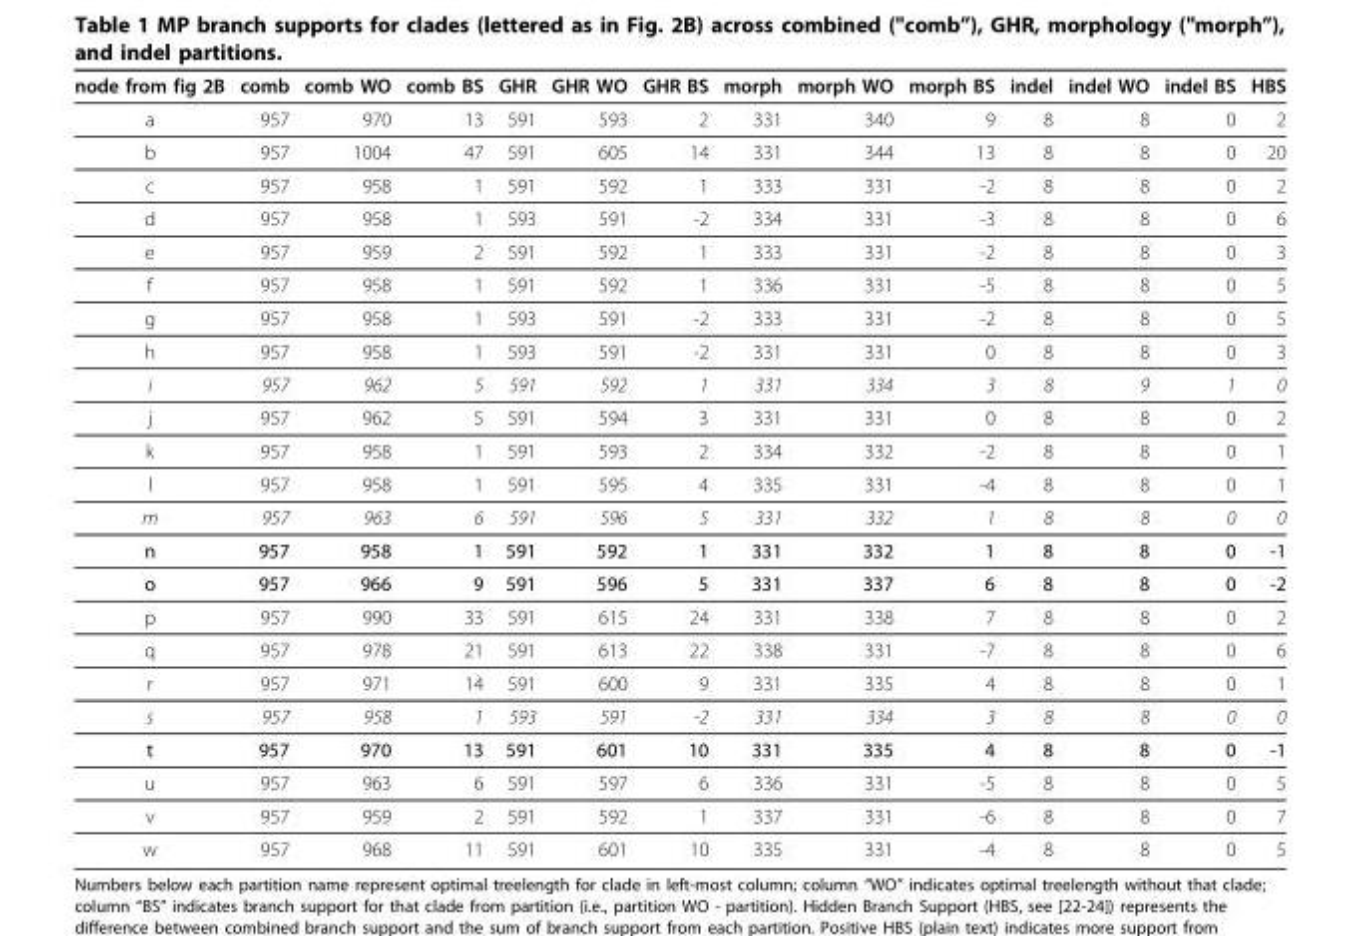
<table><thead><tr><td>node from fig 2B</td><td>comb</td><td>comb WO</td><td>comb BS</td><td>GHR</td><td>GHR WO</td><td>GHR BS</td><td>morph</td><td>morph WO</td><td>morph BS</td><td>indel</td><td>indel WO</td><td>indel BS</td><td>HBS</td></tr></thead><tbody><tr><td>a</td><td>957</td><td>970</td><td>13</td><td>591</td><td>593</td><td>2</td><td>331</td><td>340</td><td>9</td><td>8</td><td>8</td><td>0</td><td>2</td></tr><tr><td>b</td><td>957</td><td>1004</td><td>47</td><td>591</td><td>605</td><td>14</td><td>331</td><td>344</td><td>13</td><td>8</td><td>8</td><td>0</td><td>20</td></tr><tr><td>c</td><td>957</td><td>958</td><td>1</td><td>591</td><td>592</td><td>1</td><td>333</td><td>331</td><td>-2</td><td>8</td><td>8</td><td>0</td><td>2</td></tr><tr><td>d</td><td>957</td><td>958</td><td>1</td><td>593</td><td>591</td><td>-2</td><td>334</td><td>331</td><td>-3</td><td>8</td><td>8</td><td>0</td><td>6</td></tr><tr><td>e</td><td>957</td><td>959</td><td>2</td><td>591</td><td>592</td><td>1</td><td>333</td><td>331</td><td>-2</td><td>8</td><td>8</td><td>0</td><td>3</td></tr><tr><td>f</td><td>957</td><td>958</td><td>1</td><td>591</td><td>592</td><td>1</td><td>336</td><td>331</td><td>-5</td><td>8</td><td>8</td><td>0</td><td>5</td></tr><tr><td>g</td><td>957</td><td>958</td><td>1</td><td>593</td><td>591</td><td>-2</td><td>333</td><td>331</td><td>-2</td><td>8</td><td>8</td><td>0</td><td>5</td></tr><tr><td>h</td><td>957</td><td>958</td><td>1</td><td>593</td><td>591</td><td>-2</td><td>331</td><td>331</td><td>0</td><td>8</td><td>8</td><td>0</td><td>3</td></tr><tr><td>i</td><td>957</td><td>962</td><td>5</td><td>591</td><td>592</td><td>1</td><td>331</td><td>334</td><td>3</td><td>8</td><td>9</td><td>1</td><td>0</td></tr><tr><td>j</td><td>957</td><td>962</td><td>5</td><td>591</td><td>594</td><td>3</td><td>331</td><td>331</td><td>0</td><td>8</td><td>8</td><td>0</td><td>2</td></tr><tr><td>k</td><td>957</td><td>958</td><td>1</td><td>591</td><td>593</td><td>2</td><td>334</td><td>332</td><td>-2</td><td>8</td><td>8</td><td>0</td><td>1</td></tr><tr><td>l</td><td>957</td><td>958</td><td>1</td><td>591</td><td>595</td><td>4</td><td>335</td><td>331</td><td>-4</td><td>8</td><td>8</td><td>0</td><td>1</td></tr><tr><td>m</td><td>957</td><td>963</td><td>6</td><td>591</td><td>596</td><td>5</td><td>331</td><td>332</td><td>1</td><td>8</td><td>8</td><td>0</td><td>0</td></tr><tr><td>n</td><td>957</td><td>958</td><td>1</td><td>591</td><td>592</td><td>1</td><td>331</td><td>332</td><td>1</td><td>8</td><td>8</td><td>0</td><td>-1</td></tr><tr><td>o</td><td>957</td><td>966</td><td>9</td><td>591</td><td>596</td><td>5</td><td>331</td><td>337</td><td>6</td><td>8</td><td>8</td><td>0</td><td>-2</td></tr><tr><td>p</td><td>957</td><td>990</td><td>33</td><td>591</td><td>615</td><td>24</td><td>331</td><td>338</td><td>7</td><td>8</td><td>8</td><td>0</td><td>2</td></tr><tr><td>q</td><td>957</td><td>978</td><td>21</td><td>591</td><td>613</td><td>22</td><td>338</td><td>331</td><td>-7</td><td>8</td><td>8</td><td>0</td><td>6</td></tr><tr><td>r</td><td>957</td><td>971</td><td>14</td><td>591</td><td>600</td><td>9</td><td>331</td><td>335</td><td>4</td><td>8</td><td>8</td><td>0</td><td>1</td></tr><tr><td>s</td><td>957</td><td>958</td><td>1</td><td>593</td><td>591</td><td>-2</td><td>331</td><td>334</td><td>3</td><td>8</td><td>8</td><td>0</td><td>0</td></tr><tr><td>t</td><td>957</td><td>970</td><td>13</td><td>591</td><td>601</td><td>10</td><td>331</td><td>335</td><td>4</td><td>8</td><td>8</td><td>0</td><td>-1</td></tr><tr><td>u</td><td>957</td><td>963</td><td>6</td><td>591</td><td>597</td><td>6</td><td>336</td><td>331</td><td>-5</td><td>8</td><td>8</td><td>0</td><td>5</td></tr><tr><td>v</td><td>957</td><td>959</td><td>2</td><td>591</td><td>592</td><td>1</td><td>337</td><td>331</td><td>-6</td><td>8</td><td>8</td><td>0</td><td>7</td></tr><tr><td>w</td><td>957</td><td>968</td><td>11</td><td>591</td><td>601</td><td>10</td><td>335</td><td>331</td><td>-4</td><td>8</td><td>8</td><td>0</td><td>5</td></tr></tbody></table>